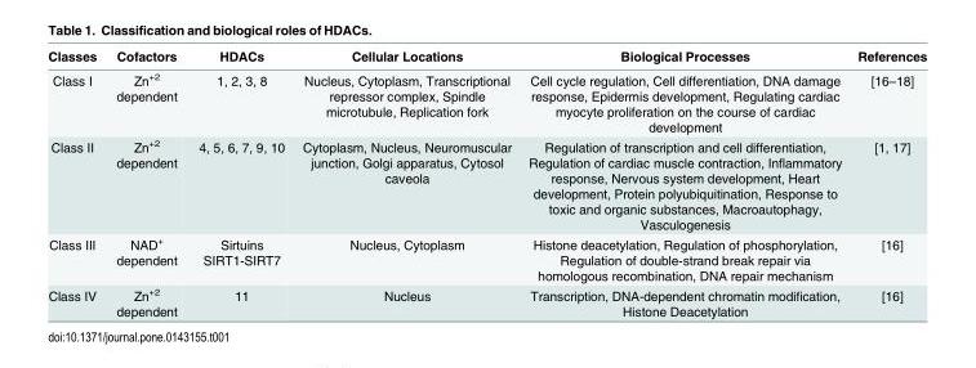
<table><thead><tr><td>Classes</td><td>Cofactors</td><td>HDACs</td><td>Cellular Locations</td><td>Biological Processes</td><td>References</td></tr></thead><tbody><tr><td>Class I</td><td>Zn<sup>+2</sup> dependent</td><td>1, 2, 3, 8</td><td>Nucleus, Cytoplasm, Transcriptional repressor complex, Spindle microtubule, Replication fork</td><td>Cell cycle regulation, Cell differentiation, DNA damage response, Epidermis development, Regulating cardiac myocyte proliferation on the course of cardiac development</td><td>[16–18]</td></tr><tr><td>Class II</td><td>Zn<sup>+2</sup> dependent</td><td>4, 5, 6, 7, 9, 10</td><td>Cytoplasm, Nucleus, Neuromuscular junction, Golgi apparatus, Cytosol caveola</td><td>Regulation of transcription and cell differentiation, Regulation of cardiac muscle contraction, Inflammatory response, Nervous system development, Heart development, Protein polyubiquitination, Response to toxic and organic substances, Macroautophagy, Vasculogenesis</td><td>[1, 17]</td></tr><tr><td>Class III</td><td>NAD<sup>+</sup> dependent</td><td>Sirtuins SIRT1-SIRT7</td><td>Nucleus, Cytoplasm</td><td>Histone deacetylation, Regulation of phosphorylation, Regulation of double-strand break repair via homologous recombination, DNA repair mechanism</td><td>[16]</td></tr><tr><td>Class IV</td><td>Zn<sup>+2</sup> dependent</td><td>11</td><td>Nucleus</td><td>Transcription, DNA-dependent chromatin modification, Histone Deacetylation</td><td>[16]</td></tr></tbody></table>